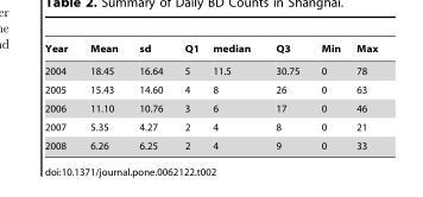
<table><thead><tr><td>Year</td><td>Mean</td><td>sd</td><td>Q1</td><td>median</td><td>Q3</td><td>Min</td><td>Max</td></tr></thead><tbody><tr><td>2004</td><td>18.45</td><td>16.64</td><td>5</td><td>11.5</td><td>30.75</td><td>0</td><td>78</td></tr><tr><td>2005</td><td>15.43</td><td>14.60</td><td>4</td><td>8</td><td>26</td><td>0</td><td>63</td></tr><tr><td>2006</td><td>11.10</td><td>10.76</td><td>3</td><td>6</td><td>17</td><td>0</td><td>46</td></tr><tr><td>2007</td><td>5.35</td><td>4.27</td><td>2</td><td>4</td><td>8</td><td>0</td><td>21</td></tr><tr><td>2008</td><td>6.26</td><td>6.25</td><td>2</td><td>4</td><td>9</td><td>0</td><td>33</td></tr></tbody></table>